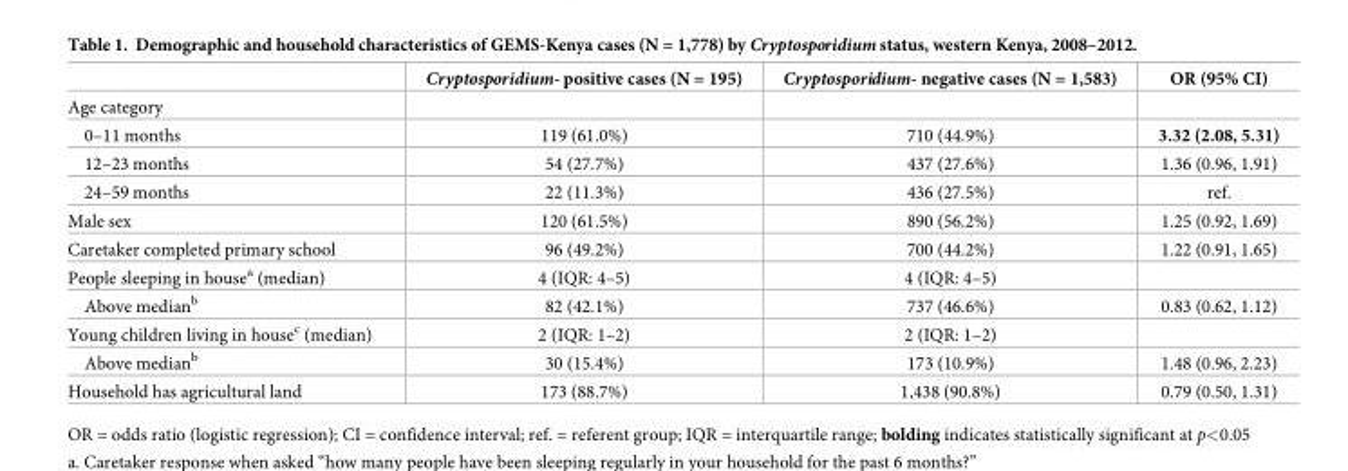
<table><thead><tr><td></td><td>Cryptosporidium- positive cases (N = 195)</td><td>Cryptosporidium- negative cases (N = 1,583)</td><td>OR (95% CI)</td></tr></thead><tbody><tr><td colspan="4">Age category</td></tr><tr><td>0–11 months</td><td>119 (61.0%)</td><td>710 (44.9%)</td><td>3.32 (2.08, 5.31)</td></tr><tr><td>12–23 months</td><td>54 (27.7%)</td><td>437 (27.6%)</td><td>1.36 (0.96, 1.91)</td></tr><tr><td>24–59 months</td><td>22 (11.3%)</td><td>436 (27.5%)</td><td>ref.</td></tr><tr><td>Male sex</td><td>120 (61.5%)</td><td>890 (56.2%)</td><td>1.25 (0.92, 1.69)</td></tr><tr><td>Caretaker completed primary school</td><td>96 (49.2%)</td><td>700 (44.2%)</td><td>1.22 (0.91, 1.65)</td></tr><tr><td>People sleeping in house<sup>a</sup> (median)</td><td>4 (IQR: 4–5)</td><td>4 (IQR: 4–5)</td><td></td></tr><tr><td>Above median<sup>b</sup></td><td>82 (42.1%)</td><td>737 (46.6%)</td><td>0.83 (0.62, 1.12)</td></tr><tr><td>Young children living in house<sup>c</sup> (median)</td><td>2 (IQR: 1–2)</td><td>2 (IQR: 1–2)</td><td></td></tr><tr><td>Above median<sup>b</sup></td><td>30 (15.4%)</td><td>173 (10.9%)</td><td>1.48 (0.96, 2.23)</td></tr><tr><td>Household has agricultural land</td><td>173 (88.7%)</td><td>1,438 (90.8%)</td><td>0.79 (0.50, 1.31)</td></tr></tbody></table>